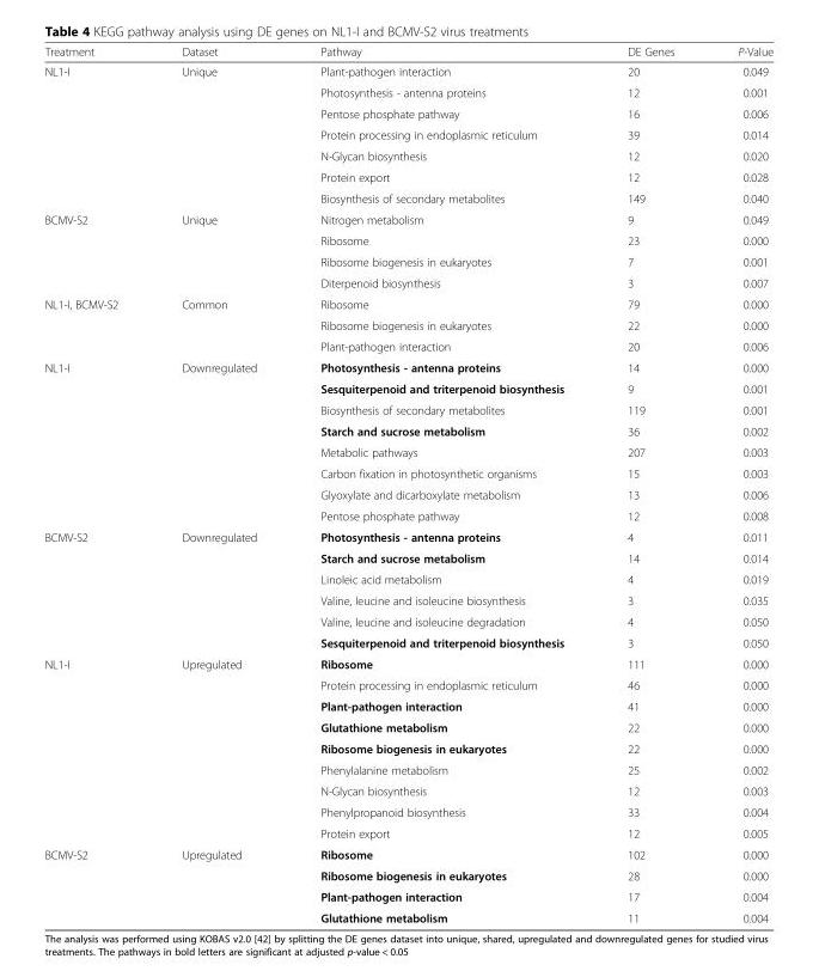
<table><thead><tr><td>Treatment</td><td>Dataset</td><td>Pathway</td><td>DE Genes</td><td>P-Value</td></tr></thead><tbody><tr><td rowspan="7">NL1-I</td><td>Unique</td><td>Plant-pathogen interaction</td><td>20</td><td>0.049</td></tr><tr><td></td><td>Photosynthesis - antenna proteins</td><td>12</td><td>0.001</td></tr><tr><td></td><td>Pentose phosphate pathway</td><td>16</td><td>0.006</td></tr><tr><td></td><td>Protein processing in endoplasmic reticulum</td><td>39</td><td>0.014</td></tr><tr><td></td><td>N-Glycan biosynthesis</td><td>12</td><td>0.020</td></tr><tr><td></td><td>Protein export</td><td>12</td><td>0.028</td></tr><tr><td></td><td>Biosynthesis of secondary metabolites</td><td>149</td><td>0.040</td></tr><tr><td rowspan="4">BCMV-S2</td><td>Unique</td><td>Nitrogen metabolism</td><td>9</td><td>0.049</td></tr><tr><td></td><td>Ribosome</td><td>23</td><td>0.000</td></tr><tr><td></td><td>Ribosome biogenesis in eukaryotes</td><td>7</td><td>0.001</td></tr><tr><td></td><td>Diterpenoid biosynthesis</td><td>3</td><td>0.007</td></tr><tr><td rowspan="3">NL1-I, BCMV-S2</td><td>Common</td><td>Ribosome</td><td>79</td><td>0.000</td></tr><tr><td></td><td>Ribosome biogenesis in eukaryotes</td><td>22</td><td>0.000</td></tr><tr><td></td><td>Plant-pathogen interaction</td><td>20</td><td>0.006</td></tr><tr><td rowspan="8">NL1-I</td><td>Downregulated</td><td>Photosynthesis - antenna proteins</td><td>14</td><td>0.000</td></tr><tr><td></td><td>Sesquiterpenoid and triterpenoid biosynthesis</td><td>9</td><td>0.001</td></tr><tr><td></td><td>Biosynthesis of secondary metabolites</td><td>119</td><td>0.001</td></tr><tr><td></td><td>Starch and sucrose metabolism</td><td>36</td><td>0.002</td></tr><tr><td></td><td>Metabolic pathways</td><td>207</td><td>0.003</td></tr><tr><td></td><td>Carbon fixation in photosynthetic organisms</td><td>15</td><td>0.003</td></tr><tr><td></td><td>Glyoxylate and dicarboxylate metabolism</td><td>13</td><td>0.006</td></tr><tr><td></td><td>Pentose phosphate pathway</td><td>12</td><td>0.008</td></tr><tr><td rowspan="6">BCMV-S2</td><td>Downregulated</td><td>Photosynthesis - antenna proteins</td><td>4</td><td>0.011</td></tr><tr><td></td><td>Starch and sucrose metabolism</td><td>14</td><td>0.014</td></tr><tr><td></td><td>Linoleic acid metabolism</td><td>4</td><td>0.019</td></tr><tr><td></td><td>Valine, leucine and isoleucine biosynthesis</td><td>3</td><td>0.035</td></tr><tr><td></td><td>Valine, leucine and isoleucine degradation</td><td>4</td><td>0.050</td></tr><tr><td></td><td>Sesquiterpenoid and triterpenoid biosynthesis</td><td>3</td><td>0.050</td></tr><tr><td rowspan="9">NL1-I</td><td>Upregulated</td><td>Ribosome</td><td>111</td><td>0.000</td></tr><tr><td></td><td>Protein processing in endoplasmic reticulum</td><td>46</td><td>0.000</td></tr><tr><td></td><td>Plant-pathogen interaction</td><td>41</td><td>0.000</td></tr><tr><td></td><td>Glutathione metabolism</td><td>22</td><td>0.000</td></tr><tr><td></td><td>Ribosome biogenesis in eukaryotes</td><td>22</td><td>0.000</td></tr><tr><td></td><td>Phenylalanine metabolism</td><td>25</td><td>0.002</td></tr><tr><td></td><td>N-Glycan biosynthesis</td><td>12</td><td>0.003</td></tr><tr><td></td><td>Phenylpropanoid biosynthesis</td><td>33</td><td>0.004</td></tr><tr><td></td><td>Protein export</td><td>12</td><td>0.005</td></tr><tr><td rowspan="4">BCMV-S2</td><td>Upregulated</td><td>Ribosome</td><td>102</td><td>0.000</td></tr><tr><td></td><td>Ribosome biogenesis in eukaryotes</td><td>28</td><td>0.000</td></tr><tr><td></td><td>Plant-pathogen interaction</td><td>17</td><td>0.004</td></tr><tr><td></td><td>Glutathione metabolism</td><td>11</td><td>0.004</td></tr></tbody></table>